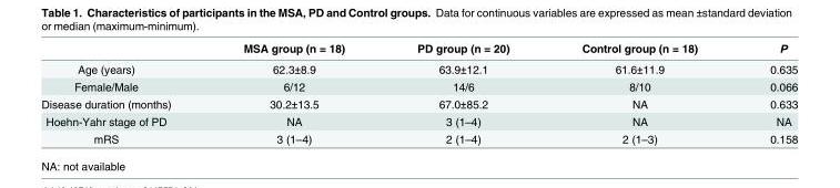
<table><thead><tr><td></td><td>MSA group (n = 18)</td><td>PD group (n = 20)</td><td>Control group (n = 18)</td><td>P</td></tr></thead><tbody><tr><td>Age (years)</td><td>62.3±8.9</td><td>63.9±12.1</td><td>61.6±11.9</td><td>0.635</td></tr><tr><td>Female/Male</td><td>6/12</td><td>14/6</td><td>8/10</td><td>0.066</td></tr><tr><td>Disease duration (months)</td><td>30.2±13.5</td><td>67.0±85.2</td><td>NA</td><td>0.633</td></tr><tr><td>Hoehn-Yahr stage of PD</td><td>NA</td><td>3 (1–4)</td><td>NA</td><td>NA</td></tr><tr><td>mRS</td><td>3 (1–4)</td><td>2 (1–4)</td><td>2 (1–3)</td><td>0.158</td></tr></tbody></table>